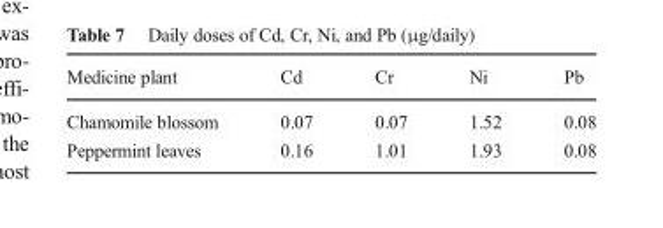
<table><thead><tr><td>Medicine plant</td><td>Cd</td><td>Cr</td><td>Ni</td><td>Pb</td></tr></thead><tbody><tr><td>Chamomile blossom</td><td>0.07</td><td>0.07</td><td>1.52</td><td>0.08</td></tr><tr><td>Peppermint leaves</td><td>0.16</td><td>1.01</td><td>1.93</td><td>0.08</td></tr></tbody></table>